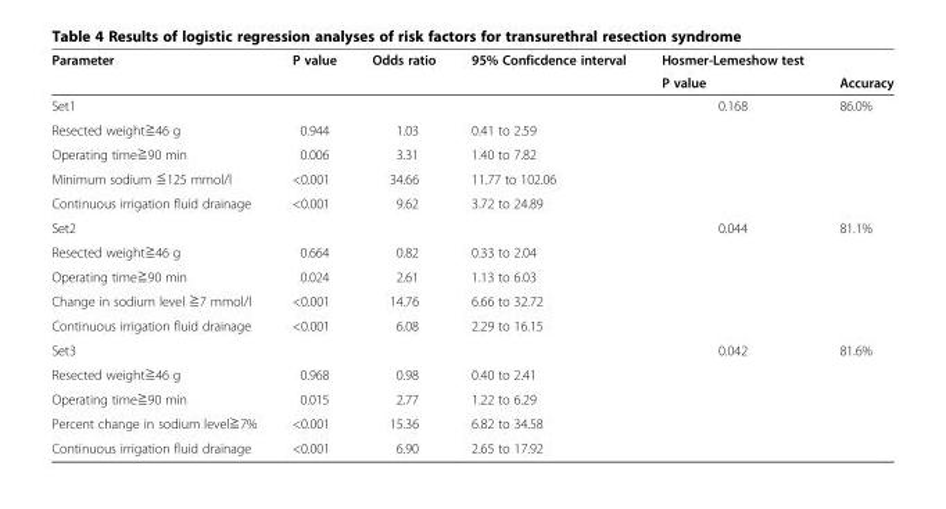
<table><thead><tr><td rowspan="2">Parameter</td><td rowspan="2">P value</td><td rowspan="2">Odds ratio</td><td rowspan="2">95% Conficdence interval</td><td rowspan="2">Hosmer-Lemeshow test P value</td><td rowspan="2">Accuracy</td></tr><tr></tr></thead><tbody><tr><td>Set1</td><td></td><td></td><td></td><td>0.168</td><td>86.0%</td></tr><tr><td>Resected weight≧46 g</td><td>0.944</td><td>1.03</td><td>0.41 to 2.59</td><td></td><td></td></tr><tr><td>Operating time≧90 min</td><td>0.006</td><td>3.31</td><td>1.40 to 7.82</td><td></td><td></td></tr><tr><td>Minimum sodium ≦125 mmol/l</td><td>&lt;0.001</td><td>34.66</td><td>11.77 to 102.06</td><td></td><td></td></tr><tr><td>Continuous irrigation fluid drainage</td><td>&lt;0.001</td><td>9.62</td><td>3.72 to 24.89</td><td></td><td></td></tr><tr><td>Set2</td><td></td><td></td><td></td><td>0.044</td><td>81.1%</td></tr><tr><td>Resected weight≧46 g</td><td>0.664</td><td>0.82</td><td>0.33 to 2.04</td><td></td><td></td></tr><tr><td>Operating time≧90 min</td><td>0.024</td><td>2.61</td><td>1.13 to 6.03</td><td></td><td></td></tr><tr><td>Change in sodium level ≧7 mmol/l</td><td>&lt;0.001</td><td>14.76</td><td>6.66 to 32.72</td><td></td><td></td></tr><tr><td>Continuous irrigation fluid drainage</td><td>&lt;0.001</td><td>6.08</td><td>2.29 to 16.15</td><td></td><td></td></tr><tr><td>Set3</td><td></td><td></td><td></td><td>0.042</td><td>81.6%</td></tr><tr><td>Resected weight≧46 g</td><td>0.968</td><td>0.98</td><td>0.40 to 2.41</td><td></td><td></td></tr><tr><td>Operating time≧90 min</td><td>0.015</td><td>2.77</td><td>1.22 to 6.29</td><td></td><td></td></tr><tr><td>Percent change in sodium level≧7%</td><td>&lt;0.001</td><td>15.36</td><td>6.82 to 34.58</td><td></td><td></td></tr><tr><td>Continuous irrigation fluid drainage</td><td>&lt;0.001</td><td>6.90</td><td>2.65 to 17.92</td><td></td><td></td></tr></tbody></table>